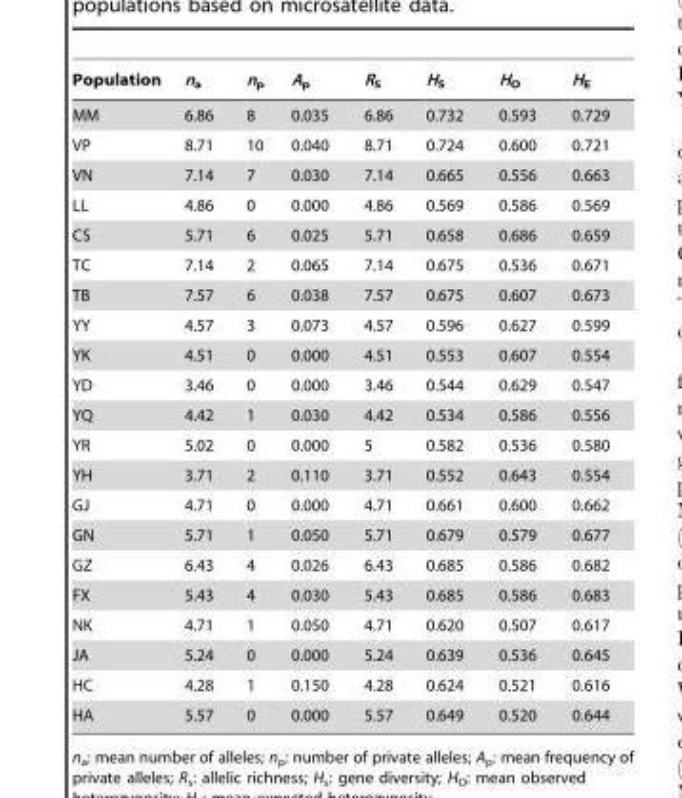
<table><thead><tr><td>Population</td><td>n<sub>a</sub></td><td>n<sub>p</sub></td><td>A<sub>p</sub></td><td>R<sub>S</sub></td><td>H<sub>S</sub></td><td>H<sub>O</sub></td><td>H<sub>E</sub></td></tr></thead><tbody><tr><td>MM</td><td>6.86</td><td>8</td><td>0.035</td><td>6.86</td><td>0.732</td><td>0.593</td><td>0.729</td></tr><tr><td>VP</td><td>8.71</td><td>10</td><td>0.040</td><td>8.71</td><td>0.724</td><td>0.600</td><td>0.721</td></tr><tr><td>VN</td><td>7.14</td><td>7</td><td>0.030</td><td>7.14</td><td>0.665</td><td>0.556</td><td>0.663</td></tr><tr><td>LL</td><td>4.86</td><td>0</td><td>0.000</td><td>4.86</td><td>0.569</td><td>0.586</td><td>0.569</td></tr><tr><td>CS</td><td>5.71</td><td>6</td><td>0.025</td><td>5.71</td><td>0.658</td><td>0.686</td><td>0.659</td></tr><tr><td>TC</td><td>7.14</td><td>2</td><td>0.065</td><td>7.14</td><td>0.675</td><td>0.536</td><td>0.671</td></tr><tr><td>TB</td><td>7.57</td><td>6</td><td>0.038</td><td>7.57</td><td>0.675</td><td>0.607</td><td>0.673</td></tr><tr><td>YY</td><td>4.57</td><td>3</td><td>0.073</td><td>4.57</td><td>0.596</td><td>0.627</td><td>0.599</td></tr><tr><td>YK</td><td>4.51</td><td>0</td><td>0.000</td><td>4.51</td><td>0.553</td><td>0.607</td><td>0.554</td></tr><tr><td>YD</td><td>3.46</td><td>0</td><td>0.000</td><td>3.46</td><td>0.544</td><td>0.629</td><td>0.547</td></tr><tr><td>YQ</td><td>4.42</td><td>1</td><td>0.030</td><td>4.42</td><td>0.534</td><td>0.586</td><td>0.556</td></tr><tr><td>YR</td><td>5.02</td><td>0</td><td>0.000</td><td>5</td><td>0.582</td><td>0.536</td><td>0.580</td></tr><tr><td>YH</td><td>3.71</td><td>2</td><td>0.110</td><td>3.71</td><td>0.552</td><td>0.643</td><td>0.554</td></tr><tr><td>GJ</td><td>4.71</td><td>0</td><td>0.000</td><td>4.71</td><td>0.661</td><td>0.600</td><td>0.662</td></tr><tr><td>GN</td><td>5.71</td><td>1</td><td>0.050</td><td>5.71</td><td>0.679</td><td>0.579</td><td>0.677</td></tr><tr><td>GZ</td><td>6.43</td><td>4</td><td>0.026</td><td>6.43</td><td>0.685</td><td>0.586</td><td>0.682</td></tr><tr><td>FX</td><td>5.43</td><td>4</td><td>0.030</td><td>5.43</td><td>0.685</td><td>0.586</td><td>0.683</td></tr><tr><td>NK</td><td>4.71</td><td>1</td><td>0.050</td><td>4.71</td><td>0.620</td><td>0.507</td><td>0.617</td></tr><tr><td>JA</td><td>5.24</td><td>0</td><td>0.000</td><td>5.24</td><td>0.639</td><td>0.536</td><td>0.645</td></tr><tr><td>HC</td><td>4.28</td><td>1</td><td>0.150</td><td>4.28</td><td>0.624</td><td>0.521</td><td>0.616</td></tr><tr><td>HA</td><td>5.57</td><td>0</td><td>0.000</td><td>5.57</td><td>0.649</td><td>0.520</td><td>0.644</td></tr></tbody></table>